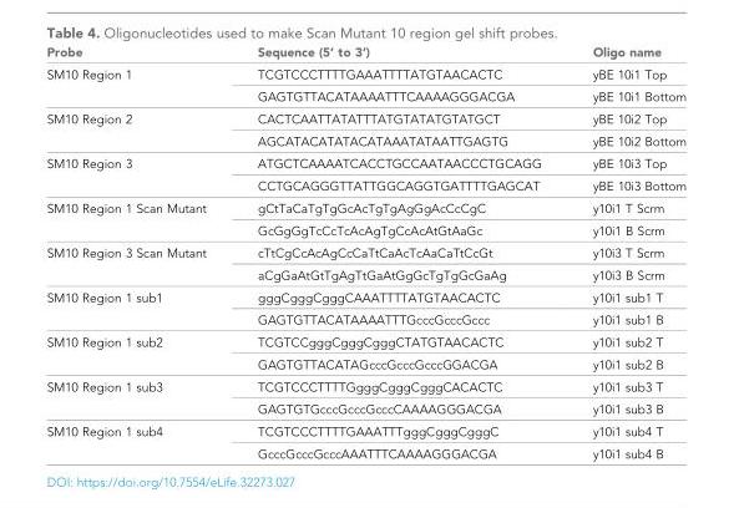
<table><thead><tr><td>Probe</td><td>Sequence (5’ to 3’)</td><td>Oligo name</td></tr></thead><tbody><tr><td rowspan="2">SM10 Region 1</td><td>TCGTCCCTTTTGAAATTTTATGTAACACTC</td><td>yBE 10i1 Top</td></tr><tr><td>GAGTGTTACATAAAATTTCAAAAGGGACGA</td><td>yBE 10i1 Bottom</td></tr><tr><td rowspan="2">SM10 Region 2</td><td>CACTCAATTATATTTATGTATATGTATGCT</td><td>yBE 10i2 Top</td></tr><tr><td>AGCATACATATACATAAATATAATTGAGTG</td><td>yBE 10i2 Bottom</td></tr><tr><td rowspan="2">SM10 Region 3</td><td>ATGCTCAAAATCACCTGCCAATAACCCTGCAGG</td><td>yBE 10i3 Top</td></tr><tr><td>CCTGCAGGGTTATTGGCAGGTGATTTTGAGCAT</td><td>yBE 10i3 Bottom</td></tr><tr><td rowspan="2">SM10 Region 1 Scan Mutant</td><td>gCtTaCaTgTgGcAcTgTgAgGgAcCcCgC</td><td>y10i1 T Scrm</td></tr><tr><td>GcGgGgTcCcTcAcAgTgCcAcAtGtAaGc</td><td>y10i1 B Scrm</td></tr><tr><td rowspan="2">SM10 Region 3 Scan Mutant</td><td>cTtCgCcAcAgCcCaTtCaAcTcAaCaTtCcGt</td><td>y10i3 T Scrm</td></tr><tr><td>aCgGaAtGtTgAgTtGaAtGgGcTgTgGcGaAg</td><td>y10i3 B Scrm</td></tr><tr><td rowspan="2">SM10 Region 1 sub1</td><td>gggCgggCgggCAAATTTTATGTAACACTC</td><td>y10i1 sub1 T</td></tr><tr><td>GAGTGTTACATAAAATTTGcccGcccGccc</td><td>y10i1 sub1 B</td></tr><tr><td rowspan="2">SM10 Region 1 sub2</td><td>TCGTCCgggCgggCgggCTATGTAACACTC</td><td>y10i1 sub2 T</td></tr><tr><td>GAGTGTTACATAGcccGcccGcccGGACGA</td><td>y10i1 sub2 B</td></tr><tr><td rowspan="2">SM10 Region 1 sub3</td><td>TCGTCCCTTTTGgggCgggCgggCACACTC</td><td>y10i1 sub3 T</td></tr><tr><td>GAGTGTGcccGcccGcccCAAAAGGGACGA</td><td>y10i1 sub3 B</td></tr><tr><td rowspan="2">SM10 Region 1 sub4</td><td>TCGTCCCTTTTGAAATTTgggCgggCgggC</td><td>y10i1 sub4 T</td></tr><tr><td>GcccGcccGcccAAATTTCAAAAGGGACGA</td><td>y10i1 sub4 B</td></tr></tbody></table>